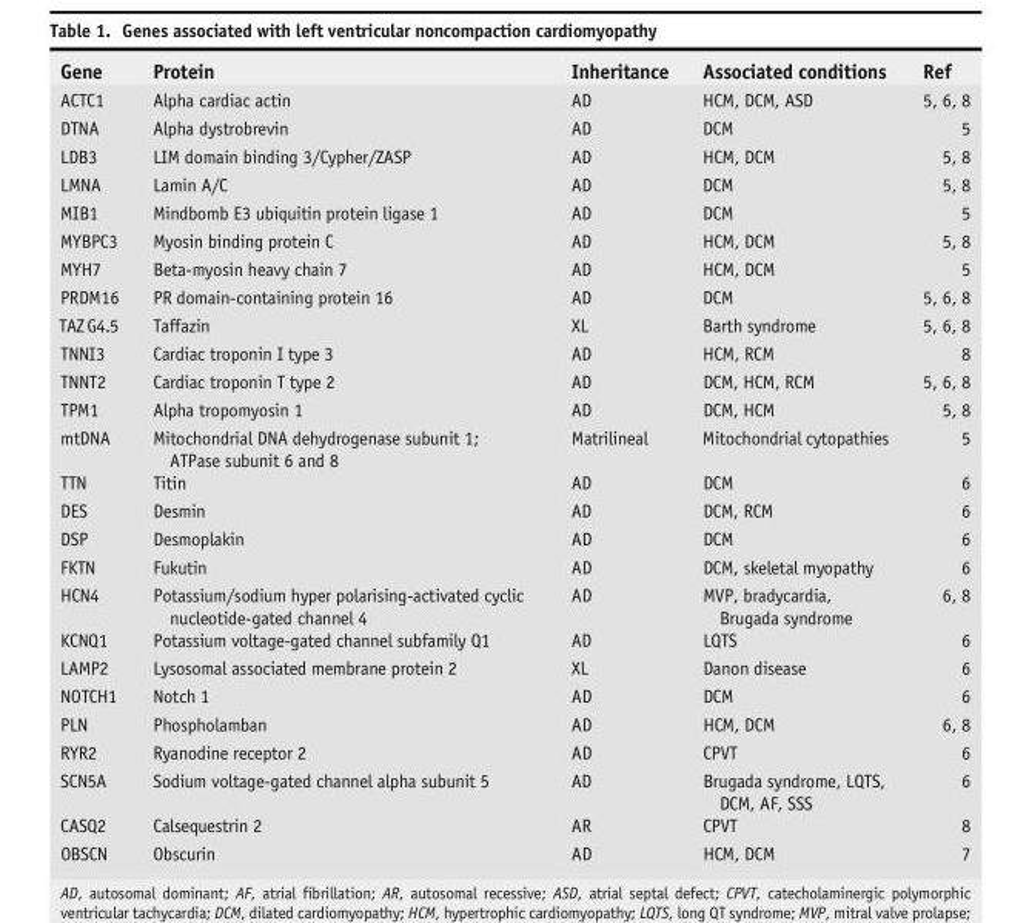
<table><thead><tr><td>Gene</td><td>Protein</td><td>Inheritance</td><td>Associated conditions</td><td>Ref</td></tr></thead><tbody><tr><td>ACTC1</td><td>Alpha cardiac actin</td><td>AD</td><td>HCM, DCM, ASD</td><td>5, 6, 8</td></tr><tr><td>DTNA</td><td>Alpha dystrobrevin</td><td>AD</td><td>DCM</td><td>5</td></tr><tr><td>LDB3</td><td>LIM domain binding 3/Cypher/ZASP</td><td>AD</td><td>HCM, DCM</td><td>5, 8</td></tr><tr><td>LMNA</td><td>Lamin A/C</td><td>AD</td><td>DCM</td><td>5, 8</td></tr><tr><td>MIB1</td><td>Mindbomb E3 ubiquitin protein ligase 1</td><td>AD</td><td>DCM</td><td>5</td></tr><tr><td>MYBPC3</td><td>Myosin binding protein C</td><td>AD</td><td>HCM, DCM</td><td>5, 8</td></tr><tr><td>MYH7</td><td>Beta-myosin heavy chain 7</td><td>AD</td><td>HCM, DCM</td><td>5</td></tr><tr><td>PRDM16</td><td>PR domain-containing protein 16</td><td>AD</td><td>DCM</td><td>5, 6, 8</td></tr><tr><td>TAZ G4.5</td><td>Taffazin</td><td>XL</td><td>Barth syndrome</td><td>5, 6, 8</td></tr><tr><td>TNNI3</td><td>Cardiac troponin I type 3</td><td>AD</td><td>HCM, RCM</td><td>8</td></tr><tr><td>TNNT2</td><td>Cardiac troponin T type 2</td><td>AD</td><td>DCM, HCM, RCM</td><td>5, 6, 8</td></tr><tr><td>TPM1</td><td>Alpha tropomyosin 1</td><td>AD</td><td>DCM, HCM</td><td>5, 8</td></tr><tr><td>mtDNA</td><td>Mitochondrial DNA dehydrogenase subunit 1; ATPase subunit 6 and 8</td><td>Matrilineal</td><td>Mitochondrial cytopathies</td><td>5</td></tr><tr><td>TTN</td><td>Titin</td><td>AD</td><td>DCM</td><td>6</td></tr><tr><td>DES</td><td>Desmin</td><td>AD</td><td>DCM, RCM</td><td>6</td></tr><tr><td>DSP</td><td>Desmoplakin</td><td>AD</td><td>DCM</td><td>6</td></tr><tr><td>FKTN</td><td>Fukutin</td><td>AD</td><td>DCM, skeletal myopathy</td><td>6</td></tr><tr><td>HCN4</td><td>Potassium/sodium hyper polarising-activated cyclic nucleotide-gated channel 4</td><td>AD</td><td>MVP, bradycardia, Brugada syndrome</td><td>6, 8</td></tr><tr><td>KCNQ1</td><td>Potassium voltage-gated channel subfamily Q1</td><td>AD</td><td>LQTS</td><td>6</td></tr><tr><td>LAMP2</td><td>Lysosomal associated membrane protein 2</td><td>XL</td><td>Danon disease</td><td>6</td></tr><tr><td>NOTCH1</td><td>Notch 1</td><td>AD</td><td>DCM</td><td>6</td></tr><tr><td>PLN</td><td>Phospholamban</td><td>AD</td><td>HCM, DCM</td><td>6, 8</td></tr><tr><td>RYR2</td><td>Ryanodine receptor 2</td><td>AD</td><td>CPVT</td><td>6</td></tr><tr><td>SCN5A</td><td>Sodium voltage-gated channel alpha subunit 5</td><td>AD</td><td>Brugada syndrome, LQTS, DCM, AF, SSS</td><td>6</td></tr><tr><td>CASQ2</td><td>Calsequestrin 2</td><td>AR</td><td>CPVT</td><td>8</td></tr><tr><td>OBSCN</td><td>Obscurin</td><td>AD</td><td>HCM, DCM</td><td>7</td></tr></tbody></table>